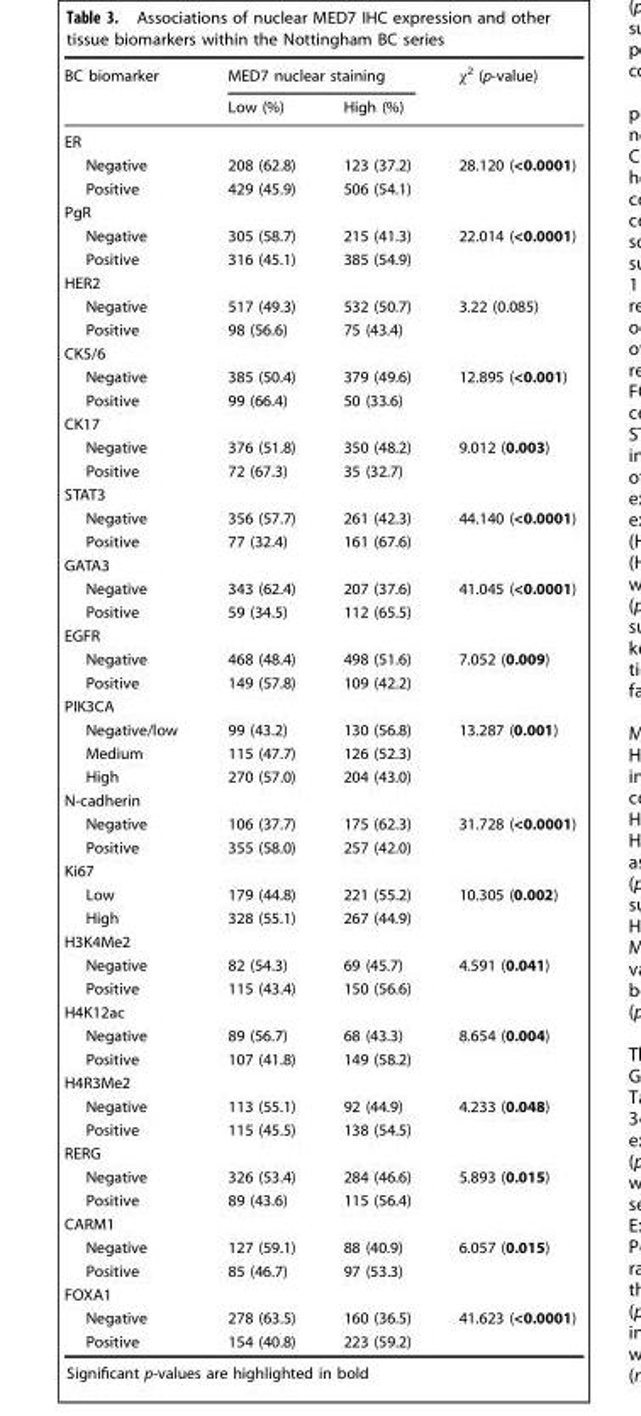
<table><thead><tr><td rowspan="2">BC biomarker</td><td colspan="2">MED7 nuclear staining</td><td rowspan="2">χ<sup>2</sup> (p-value)</td></tr><tr><td>Low (%)</td><td>High (%)</td></tr></thead><tbody><tr><td colspan="4">ER</td></tr><tr><td>Negative</td><td>208 (62.8)</td><td>123 (37.2)</td><td>28.120 (&lt;0.0001)</td></tr><tr><td>Positive</td><td>429 (45.9)</td><td>506 (54.1)</td><td></td></tr><tr><td colspan="4">PgR</td></tr><tr><td>Negative</td><td>305 (58.7)</td><td>215 (41.3)</td><td>22.014 (&lt;0.0001)</td></tr><tr><td>Positive</td><td>316 (45.1)</td><td>385 (54.9)</td><td></td></tr><tr><td colspan="4">HER2</td></tr><tr><td>Negative</td><td>517 (49.3)</td><td>532 (50.7)</td><td>3.22 (0.085)</td></tr><tr><td>Positive</td><td>98 (56.6)</td><td>75 (43.4)</td><td></td></tr><tr><td colspan="4">CK5/6</td></tr><tr><td>Negative</td><td>385 (50.4)</td><td>379 (49.6)</td><td>12.895 (&lt;0.001)</td></tr><tr><td>Positive</td><td>99 (66.4)</td><td>50 (33.6)</td><td></td></tr><tr><td colspan="4">CK17</td></tr><tr><td>Negative</td><td>376 (51.8)</td><td>350 (48.2)</td><td>9.012 (0.003)</td></tr><tr><td>Positive</td><td>72 (67.3)</td><td>35 (32.7)</td><td></td></tr><tr><td colspan="4">STAT3</td></tr><tr><td>Negative</td><td>356 (57.7)</td><td>261 (42.3)</td><td>44.140 (&lt;0.0001)</td></tr><tr><td>Positive</td><td>77 (32.4)</td><td>161 (67.6)</td><td></td></tr><tr><td colspan="4">GATA3</td></tr><tr><td>Negative</td><td>343 (62.4)</td><td>207 (37.6)</td><td>41.045 (&lt;0.0001)</td></tr><tr><td>Positive</td><td>59 (34.5)</td><td>112 (65.5)</td><td></td></tr><tr><td colspan="4">EGFR</td></tr><tr><td>Negative</td><td>468 (48.4)</td><td>498 (51.6)</td><td>7.052 (0.009)</td></tr><tr><td>Positive</td><td>149 (57.8)</td><td>109 (42.2)</td><td></td></tr><tr><td colspan="4">PIK3CA</td></tr><tr><td>Negative/low</td><td>99 (43.2)</td><td>130 (56.8)</td><td>13.287 (0.001)</td></tr><tr><td>Medium</td><td>115 (47.7)</td><td>126 (52.3)</td><td></td></tr><tr><td>High</td><td>270 (57.0)</td><td>204 (43.0)</td><td></td></tr><tr><td colspan="4">N-cadherin</td></tr><tr><td>Negative</td><td>106 (37.7)</td><td>175 (62.3)</td><td>31.728 (&lt;0.0001)</td></tr><tr><td>Positive</td><td>355 (58.0)</td><td>257 (42.0)</td><td></td></tr><tr><td colspan="4">Ki67</td></tr><tr><td>Low</td><td>179 (44.8)</td><td>221 (55.2)</td><td>10.305 (0.002)</td></tr><tr><td>High</td><td>328 (55.1)</td><td>267 (44.9)</td><td></td></tr><tr><td colspan="4">H3K4Me2</td></tr><tr><td>Negative</td><td>82 (54.3)</td><td>69 (45.7)</td><td>4.591 (0.041)</td></tr><tr><td>Positive</td><td>115 (43.4)</td><td>150 (56.6)</td><td></td></tr><tr><td colspan="4">H4K12ac</td></tr><tr><td>Negative</td><td>89 (56.7)</td><td>68 (43.3)</td><td>8.654 (0.004)</td></tr><tr><td>Positive</td><td>107 (41.8)</td><td>149 (58.2)</td><td></td></tr><tr><td colspan="4">H4R3Me2</td></tr><tr><td>Negative</td><td>113 (55.1)</td><td>92 (44.9)</td><td>4.233 (0.048)</td></tr><tr><td>Positive</td><td>115 (45.5)</td><td>138 (54.5)</td><td></td></tr><tr><td colspan="4">RERG</td></tr><tr><td>Negative</td><td>326 (53.4)</td><td>284 (46.6)</td><td>5.893 (0.015)</td></tr><tr><td>Positive</td><td>89 (43.6)</td><td>115 (56.4)</td><td></td></tr><tr><td colspan="4">CARM1</td></tr><tr><td>Negative</td><td>127 (59.1)</td><td>88 (40.9)</td><td>6.057 (0.015)</td></tr><tr><td>Positive</td><td>85 (46.7)</td><td>97 (53.3)</td><td></td></tr><tr><td colspan="4">FOXA1</td></tr><tr><td>Negative</td><td>278 (63.5)</td><td>160 (36.5)</td><td>41.623 (&lt;0.0001)</td></tr><tr><td>Positive</td><td>154 (40.8)</td><td>223 (59.2)</td><td></td></tr></tbody></table>